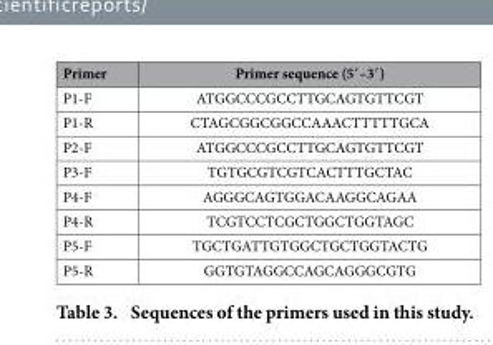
<table><thead><tr><td>Primer</td><td>Primer sequence (5′ –3′ )</td></tr></thead><tbody><tr><td>P1-F</td><td>ATGGCCCGCCTTGCAGTGTTCGT</td></tr><tr><td>P1-R</td><td>CTAGCGGCGGCCAAACTTTTTGCA</td></tr><tr><td>P2-F</td><td>ATGGCCCGCCTTGCAGTGTTCGT</td></tr><tr><td>P3-F</td><td>TGTGCGTCGTCACTTTGCTAC</td></tr><tr><td>P4-F</td><td>AGGGCAGTGGACAAGGCAGAA</td></tr><tr><td>P4-R</td><td>TCGTCCTCGCTGGCTGGTAGC</td></tr><tr><td>P5-F</td><td>TGCTGATTGTGGCTGCTGGTACTG</td></tr><tr><td>P5-R</td><td>GGTGTAGGCCAGCAGGGCGTG</td></tr></tbody></table>